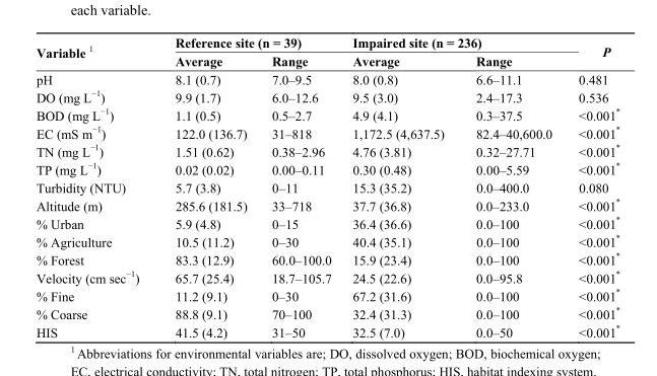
<table><thead><tr><td rowspan="2">Variable <sup>1</sup></td><td colspan="2">Reference site (n = 39)</td><td colspan="2">Impaired site (n = 236)</td><td rowspan="2">P</td></tr><tr><td>Average</td><td>Range</td><td>Average</td><td>Range</td></tr></thead><tbody><tr><td>pH</td><td>8.1 (0.7)</td><td>7.0–9.5</td><td>8.0 (0.8)</td><td>6.6–11.1</td><td>0.481</td></tr><tr><td>DO (mg L<sup>−1</sup>)</td><td>9.9 (1.7)</td><td>6.0–12.6</td><td>9.5 (3.0)</td><td>2.4–17.3</td><td>0.536</td></tr><tr><td>BOD (mg L<sup>−1</sup>)</td><td>1.1 (0.5)</td><td>0.5–2.7</td><td>4.9 (4.1)</td><td>0.3–37.5</td><td>&lt;0.001*</td></tr><tr><td>EC (mS m<sup>−1</sup>)</td><td>122.0 (136.7)</td><td>31–818</td><td>1,172.5 (4,637.5)</td><td>82.4–40,600.0</td><td>&lt;0.001*</td></tr><tr><td>TN (mg L<sup>−1</sup>)</td><td>1.51 (0.62)</td><td>0.38–2.96</td><td>4.76 (3.81)</td><td>0.32–27.71</td><td>&lt;0.001*</td></tr><tr><td>TP (mg L<sup>−1</sup>)</td><td>0.02 (0.02)</td><td>0.00–0.11</td><td>0.30 (0.48)</td><td>0.00–5.59</td><td>&lt;0.001*</td></tr><tr><td>Turbidity (NTU)</td><td>5.7 (3.8)</td><td>0–11</td><td>15.3 (35.2)</td><td>0.0–400.0</td><td>0.080</td></tr><tr><td>Altitude (m)</td><td>285.6 (181.5)</td><td>33–718</td><td>37.7 (36.8)</td><td>0.0–233.0</td><td>&lt;0.001*</td></tr><tr><td>% Urban</td><td>5.9 (4.8)</td><td>0–15</td><td>36.4 (36.6)</td><td>0.0–100</td><td>&lt;0.001*</td></tr><tr><td>% Agriculture</td><td>10.5 (11.2)</td><td>0–30</td><td>40.4 (35.1)</td><td>0.0–100</td><td>&lt;0.001*</td></tr><tr><td>% Forest</td><td>83.3 (12.9)</td><td>60.0–100.0</td><td>15.9 (23.4)</td><td>0.0–100</td><td>&lt;0.001*</td></tr><tr><td>Velocity (cm sec<sup>−1</sup>)</td><td>65.7 (25.4)</td><td>18.7–105.7</td><td>24.5 (22.6)</td><td>0.0–95.8</td><td>&lt;0.001*</td></tr><tr><td>% Fine</td><td>11.2 (9.1)</td><td>0–30</td><td>67.2 (31.6)</td><td>0.0–100</td><td>&lt;0.001*</td></tr><tr><td>% Coarse</td><td>88.8 (9.1)</td><td>70–100</td><td>32.4 (31.3)</td><td>0.0–100</td><td>&lt;0.001*</td></tr><tr><td>HIS</td><td>41.5 (4.2)</td><td>31–50</td><td>32.5 (7.0)</td><td>0.0–50</td><td>&lt;0.001*</td></tr></tbody></table>